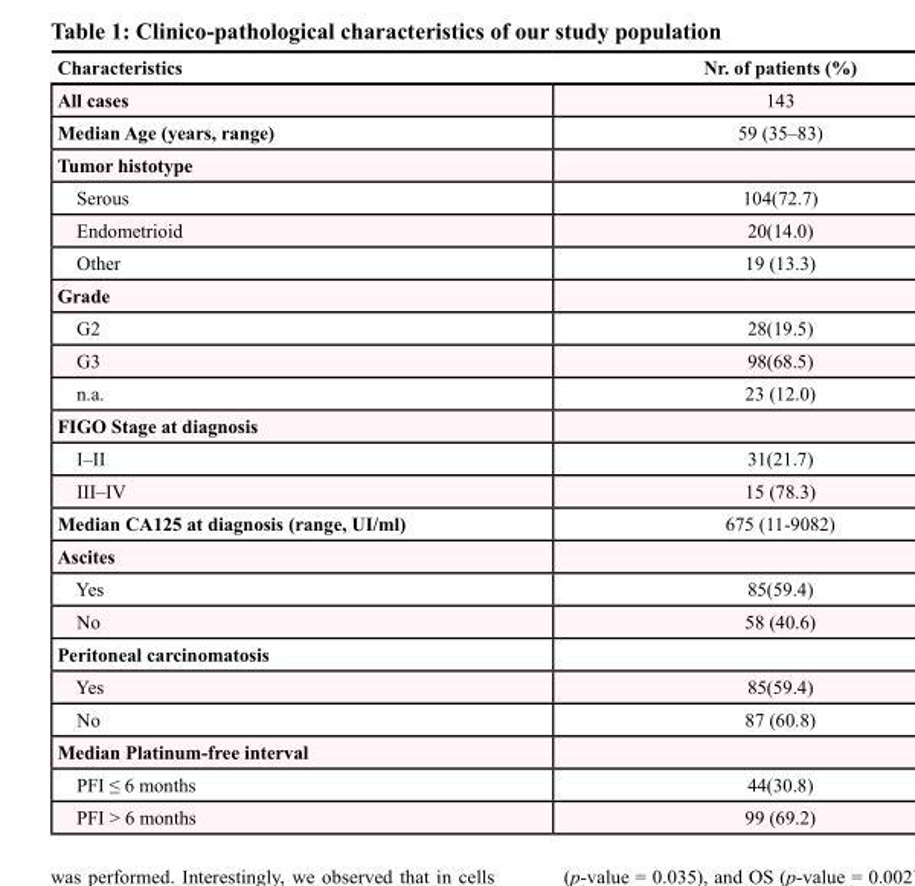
<table><thead><tr><td>Characteristics</td><td>Nr. of patients (%)</td></tr></thead><tbody><tr><td>All cases</td><td>143</td></tr><tr><td>Median Age (years, range)</td><td>59 (35–83)</td></tr><tr><td colspan="2">Tumor histotype</td></tr><tr><td>Serous</td><td>104(72.7)</td></tr><tr><td>Endometrioid</td><td>20(14.0)</td></tr><tr><td>Other</td><td>19 (13.3)</td></tr><tr><td colspan="2">Grade</td></tr><tr><td>G2</td><td>28(19.5)</td></tr><tr><td>G3</td><td>98(68.5)</td></tr><tr><td>n.a.</td><td>23 (12.0)</td></tr><tr><td colspan="2">FIGO Stage at diagnosis</td></tr><tr><td>I–II</td><td>31(21.7)</td></tr><tr><td>III–IV</td><td>15 (78.3)</td></tr><tr><td>Median CA125 at diagnosis (range, UI/ml)</td><td>675 (11-9082)</td></tr><tr><td colspan="2">Ascites</td></tr><tr><td>Yes</td><td>85(59.4)</td></tr><tr><td>No</td><td>58 (40.6)</td></tr><tr><td colspan="2">Peritoneal carcinomatosis</td></tr><tr><td>Yes</td><td>85(59.4)</td></tr><tr><td>No</td><td>87 (60.8)</td></tr><tr><td colspan="2">Median Platinum-free interval</td></tr><tr><td>PFI ≤ 6 months</td><td>44(30.8)</td></tr><tr><td>PFI &gt; 6 months</td><td>99 (69.2)</td></tr></tbody></table>